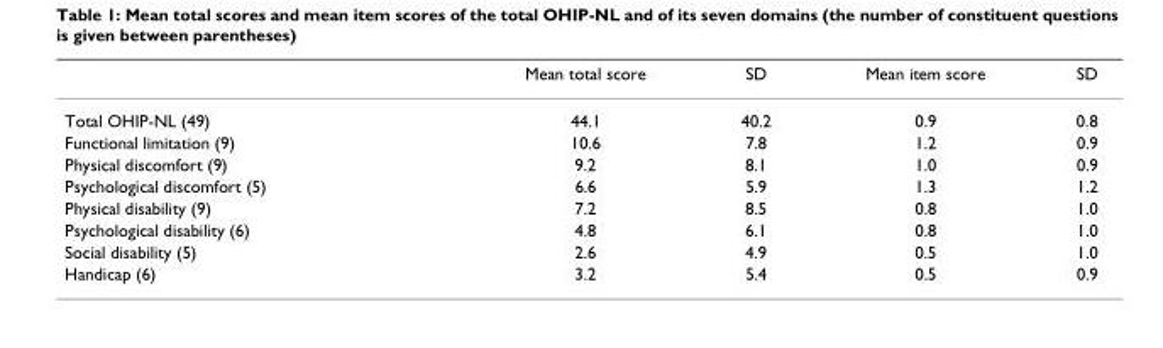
<table><thead><tr><td></td><td>Mean total score</td><td>SD</td><td>Mean item score</td><td>SD</td></tr></thead><tbody><tr><td>Total OHIP-NL (49)</td><td>44.1</td><td>40.2</td><td>0.9</td><td>0.8</td></tr><tr><td>Functional limitation (9)</td><td>10.6</td><td>7.8</td><td>1.2</td><td>0.9</td></tr><tr><td>Physical discomfort (9)</td><td>9.2</td><td>8.1</td><td>1.0</td><td>0.9</td></tr><tr><td>Psychological discomfort (5)</td><td>6.6</td><td>5.9</td><td>1.3</td><td>1.2</td></tr><tr><td>Physical disability (9)</td><td>7.2</td><td>8.5</td><td>0.8</td><td>1.0</td></tr><tr><td>Psychological disability (6)</td><td>4.8</td><td>6.1</td><td>0.8</td><td>1.0</td></tr><tr><td>Social disability (5)</td><td>2.6</td><td>4.9</td><td>0.5</td><td>1.0</td></tr><tr><td>Handicap (6)</td><td>3.2</td><td>5.4</td><td>0.5</td><td>0.9</td></tr></tbody></table>